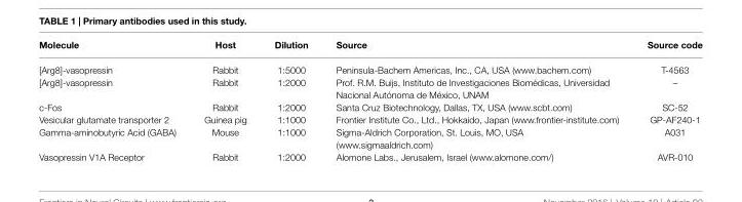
<table><thead><tr><td>Molecule</td><td>Host</td><td>Dilution</td><td>Source</td><td>Source code</td></tr></thead><tbody><tr><td>[Arg8]-vasopressin</td><td>Rabbit</td><td>1:5000</td><td>Peninsula-Bachem Americas, Inc., CA, USA (www.bachem.com)</td><td>T-4563</td></tr><tr><td>[Arg8]-vasopressin</td><td>Rabbit</td><td>1:2000</td><td>Prof. R.M. Buijs, Instituto de Investigaciones Biomédicas, Universidad Nacional Autónoma de México, UNAM</td><td>–</td></tr><tr><td>c-Fos</td><td>Rabbit</td><td>1:2000</td><td>Santa Cruz Biotechnology, Dallas, TX, USA (www.scbt.com)</td><td>SC-52</td></tr><tr><td>Vesicular glutamate transporter 2</td><td>Guinea pig</td><td>1:1000</td><td>Frontier Institute Co., Ltd., Hokkaido, Japan (www.frontier-institute.com)</td><td>GP-AF240-1</td></tr><tr><td>Gamma-aminobutyric Acid (GABA)</td><td>Mouse</td><td>1:1000</td><td>Sigma-Aldrich Corporation, St. Louis, MO, USA (www.sigmaaldrich.com)</td><td>A031</td></tr><tr><td>Vasopressin V1A Receptor</td><td>Rabbit</td><td>1:2000</td><td>Alomone Labs., Jerusalem, Israel (www.alomone.com/)</td><td>AVR-010</td></tr></tbody></table>